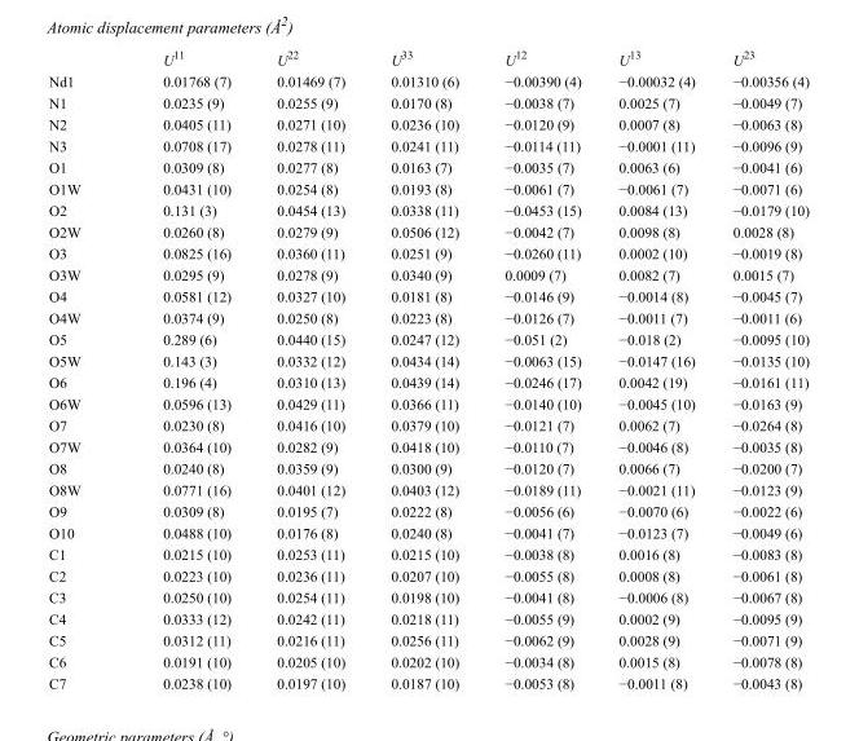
<table><thead><tr><td></td><td>U<sup>11</sup></td><td>U<sup>22</sup></td><td>U<sup>33</sup></td><td>U<sup>12</sup></td><td>U<sup>13</sup></td><td>U<sup>23</sup></td></tr></thead><tbody><tr><td>Nd1</td><td>0.01768 (7)</td><td>0.01469 (7)</td><td>0.01310 (6)</td><td>−0.00390 (4)</td><td>−0.00032 (4)</td><td>−0.00356 (4)</td></tr><tr><td>N1</td><td>0.0235 (9)</td><td>0.0255 (9)</td><td>0.0170 (8)</td><td>−0.0038 (7)</td><td>0.0025 (7)</td><td>−0.0049 (7)</td></tr><tr><td>N2</td><td>0.0405 (11)</td><td>0.0271 (10)</td><td>0.0236 (10)</td><td>−0.0120 (9)</td><td>0.0007 (8)</td><td>−0.0063 (8)</td></tr><tr><td>N3</td><td>0.0708 (17)</td><td>0.0278 (11)</td><td>0.0241 (11)</td><td>−0.0114 (11)</td><td>−0.0001 (11)</td><td>−0.0096 (9)</td></tr><tr><td>O1</td><td>0.0309 (8)</td><td>0.0277 (8)</td><td>0.0163 (7)</td><td>−0.0035 (7)</td><td>0.0063 (6)</td><td>−0.0041 (6)</td></tr><tr><td>O1W</td><td>0.0431 (10)</td><td>0.0254 (8)</td><td>0.0193 (8)</td><td>−0.0061 (7)</td><td>−0.0061 (7)</td><td>−0.0071 (6)</td></tr><tr><td>O2</td><td>0.131 (3)</td><td>0.0454 (13)</td><td>0.0338 (11)</td><td>−0.0453 (15)</td><td>0.0084 (13)</td><td>−0.0179 (10)</td></tr><tr><td>O2W</td><td>0.0260 (8)</td><td>0.0279 (9)</td><td>0.0506 (12)</td><td>−0.0042 (7)</td><td>0.0098 (8)</td><td>0.0028 (8)</td></tr><tr><td>O3</td><td>0.0825 (16)</td><td>0.0360 (11)</td><td>0.0251 (9)</td><td>−0.0260 (11)</td><td>0.0002 (10)</td><td>−0.0019 (8)</td></tr><tr><td>O3W</td><td>0.0295 (9)</td><td>0.0278 (9)</td><td>0.0340 (9)</td><td>0.0009 (7)</td><td>0.0082 (7)</td><td>0.0015 (7)</td></tr><tr><td>O4</td><td>0.0581 (12)</td><td>0.0327 (10)</td><td>0.0181 (8)</td><td>−0.0146 (9)</td><td>−0.0014 (8)</td><td>−0.0045 (7)</td></tr><tr><td>O4W</td><td>0.0374 (9)</td><td>0.0250 (8)</td><td>0.0223 (8)</td><td>−0.0126 (7)</td><td>−0.0011 (7)</td><td>−0.0011 (6)</td></tr><tr><td>O5</td><td>0.289 (6)</td><td>0.0440 (15)</td><td>0.0247 (12)</td><td>−0.051 (2)</td><td>−0.018 (2)</td><td>−0.0095 (10)</td></tr><tr><td>O5W</td><td>0.143 (3)</td><td>0.0332 (12)</td><td>0.0434 (14)</td><td>−0.0063 (15)</td><td>−0.0147 (16)</td><td>−0.0135 (10)</td></tr><tr><td>O6</td><td>0.196 (4)</td><td>0.0310 (13)</td><td>0.0439 (14)</td><td>−0.0246 (17)</td><td>0.0042 (19)</td><td>−0.0161 (11)</td></tr><tr><td>O6W</td><td>0.0596 (13)</td><td>0.0429 (11)</td><td>0.0366 (11)</td><td>−0.0140 (10)</td><td>−0.0045 (10)</td><td>−0.0163 (9)</td></tr><tr><td>O7</td><td>0.0230 (8)</td><td>0.0416 (10)</td><td>0.0379 (10)</td><td>−0.0121 (7)</td><td>0.0062 (7)</td><td>−0.0264 (8)</td></tr><tr><td>O7W</td><td>0.0364 (10)</td><td>0.0282 (9)</td><td>0.0418 (10)</td><td>−0.0110 (7)</td><td>−0.0046 (8)</td><td>−0.0035 (8)</td></tr><tr><td>O8</td><td>0.0240 (8)</td><td>0.0359 (9)</td><td>0.0300 (9)</td><td>−0.0120 (7)</td><td>0.0066 (7)</td><td>−0.0200 (7)</td></tr><tr><td>O8W</td><td>0.0771 (16)</td><td>0.0401 (12)</td><td>0.0403 (12)</td><td>−0.0189 (11)</td><td>−0.0021 (11)</td><td>−0.0123 (9)</td></tr><tr><td>O9</td><td>0.0309 (8)</td><td>0.0195 (7)</td><td>0.0222 (8)</td><td>−0.0056 (6)</td><td>−0.0070 (6)</td><td>−0.0022 (6)</td></tr><tr><td>O10</td><td>0.0488 (10)</td><td>0.0176 (8)</td><td>0.0240 (8)</td><td>−0.0041 (7)</td><td>−0.0123 (7)</td><td>−0.0049 (6)</td></tr><tr><td>C1</td><td>0.0215 (10)</td><td>0.0253 (11)</td><td>0.0215 (10)</td><td>−0.0038 (8)</td><td>0.0016 (8)</td><td>−0.0083 (8)</td></tr><tr><td>C2</td><td>0.0223 (10)</td><td>0.0236 (11)</td><td>0.0207 (10)</td><td>−0.0055 (8)</td><td>0.0008 (8)</td><td>−0.0061 (8)</td></tr><tr><td>C3</td><td>0.0250 (10)</td><td>0.0254 (11)</td><td>0.0198 (10)</td><td>−0.0041 (8)</td><td>−0.0006 (8)</td><td>−0.0067 (8)</td></tr><tr><td>C4</td><td>0.0333 (12)</td><td>0.0242 (11)</td><td>0.0218 (11)</td><td>−0.0055 (9)</td><td>0.0002 (9)</td><td>−0.0095 (9)</td></tr><tr><td>C5</td><td>0.0312 (11)</td><td>0.0216 (11)</td><td>0.0256 (11)</td><td>−0.0062 (9)</td><td>0.0028 (9)</td><td>−0.0071 (9)</td></tr><tr><td>C6</td><td>0.0191 (10)</td><td>0.0205 (10)</td><td>0.0202 (10)</td><td>−0.0034 (8)</td><td>0.0015 (8)</td><td>−0.0078 (8)</td></tr><tr><td>C7</td><td>0.0238 (10)</td><td>0.0197 (10)</td><td>0.0187 (10)</td><td>−0.0053 (8)</td><td>−0.0011 (8)</td><td>−0.0043 (8)</td></tr></tbody></table>